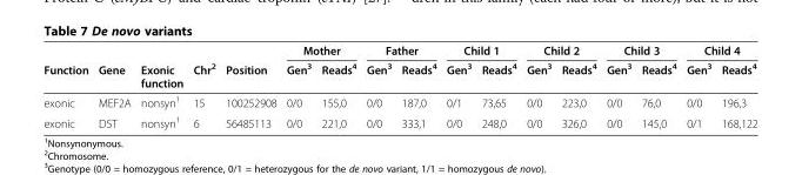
<table><thead><tr><td rowspan="2">Function</td><td rowspan="2">Gene</td><td rowspan="2">Exonic function</td><td rowspan="2">Chr<sup>2</sup></td><td rowspan="2">Position</td><td colspan="2">Mother</td><td colspan="2">Father</td><td colspan="2">Child 1</td><td colspan="2">Child 2</td><td colspan="2">Child 3</td><td colspan="2">Child 4</td></tr><tr><td>Gen<sup>3</sup></td><td>Reads<sup>4</sup></td><td>Gen<sup>3</sup></td><td>Reads<sup>4</sup></td><td>Gen<sup>3</sup></td><td>Reads<sup>4</sup></td><td>Gen<sup>3</sup></td><td>Reads<sup>4</sup></td><td>Gen<sup>3</sup></td><td>Reads<sup>4</sup></td><td>Gen<sup>3</sup></td><td>Reads<sup>4</sup></td></tr></thead><tbody><tr><td>exonic</td><td>MEF2A</td><td>nonsyn<sup>1</sup></td><td>15</td><td>100252908</td><td>0/0</td><td>155,0</td><td>0/0</td><td>187,0</td><td>0/1</td><td>73,65</td><td>0/0</td><td>223,0</td><td>0/0</td><td>76,0</td><td>0/0</td><td>196,3</td></tr><tr><td>exonic</td><td>DST</td><td>nonsyn<sup>1</sup></td><td>6</td><td>56485113</td><td>0/0</td><td>221,0</td><td>0/0</td><td>333,1</td><td>0/0</td><td>248,0</td><td>0/0</td><td>326,0</td><td>0/0</td><td>145,0</td><td>0/1</td><td>168,122</td></tr></tbody></table>